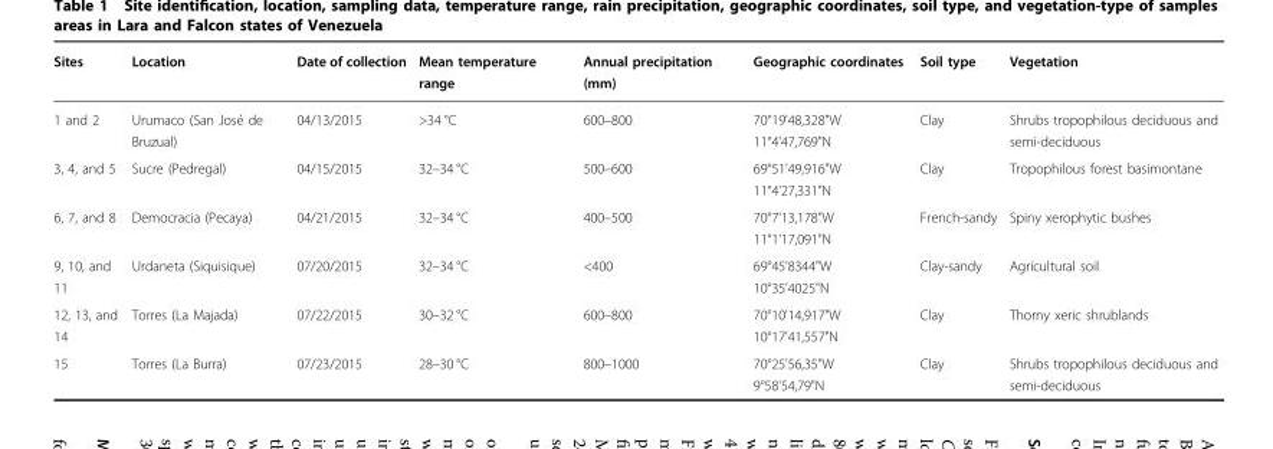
<table><thead><tr><td>Sites</td><td>Location</td><td>Date of collection</td><td>Mean temperature range</td><td>Annual precipitation (mm)</td><td>Geographic coordinates</td><td>Soil type</td><td>Vegetation</td></tr></thead><tbody><tr><td>1 and 2</td><td>Urumaco (San José de Bruzual)</td><td>04/13/2015</td><td>&gt;34 °C</td><td>600–800</td><td>70°19&#x27;48,328&quot;W 11°4&#x27;47,769&quot;N</td><td>Clay</td><td>Shrubs tropophilous deciduous and semi-deciduous</td></tr><tr><td>3, 4, and 5</td><td>Sucre (Pedregal)</td><td>04/15/2015</td><td>32–34 °C</td><td>500–600</td><td>69°51&#x27;49,916&quot;W 11°4&#x27;27,331&quot;N</td><td>Clay</td><td>Tropophilous forest basimontane</td></tr><tr><td>6, 7, and 8</td><td>Democracia (Pecaya)</td><td>04/21/2015</td><td>32–34 °C</td><td>400–500</td><td>70°7&#x27;13,178&quot;W 11°1&#x27;17,091&quot;N</td><td>French-sandy</td><td>Spiny xerophytic bushes</td></tr><tr><td>9, 10, and 11</td><td>Urdaneta (Siquisique)</td><td>07/20/2015</td><td>32–34 °C</td><td>&lt;400</td><td>69°45&#x27;8344&quot;W 10°35&#x27;4025&quot;N</td><td>Clay-sandy</td><td>Agricultural soil</td></tr><tr><td>12, 13, and 14</td><td>Torres (La Majada)</td><td>07/22/2015</td><td>30–32 °C</td><td>600–800</td><td>70°10&#x27;14,917&quot;W 10°17&#x27;41,557&quot;N</td><td>Clay</td><td>Thorny xeric shrublands</td></tr><tr><td>15</td><td>Torres (La Burra)</td><td>07/23/2015</td><td>28–30 °C</td><td>800–1000</td><td>70°25&#x27;56,35&quot;W 9°58&#x27;54,79&quot;N</td><td>Clay</td><td>Shrubs tropophilous deciduous and semi-deciduous</td></tr></tbody></table>